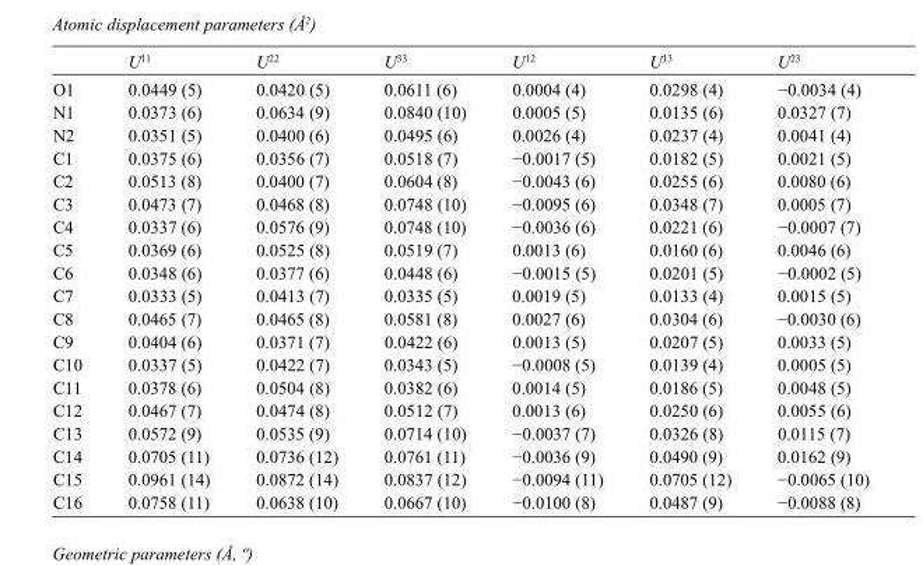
<table><thead><tr><td></td><td>U<sup>11</sup></td><td>U<sup>22</sup></td><td>U<sup>33</sup></td><td>U<sup>12</sup></td><td>U<sup>13</sup></td><td>U<sup>23</sup></td></tr></thead><tbody><tr><td>O1</td><td>0.0449 (5)</td><td>0.0420 (5)</td><td>0.0611 (6)</td><td>0.0004 (4)</td><td>0.0298 (4)</td><td>−0.0034 (4)</td></tr><tr><td>N1</td><td>0.0373 (6)</td><td>0.0634 (9)</td><td>0.0840 (10)</td><td>0.0005 (5)</td><td>0.0135 (6)</td><td>0.0327 (7)</td></tr><tr><td>N2</td><td>0.0351 (5)</td><td>0.0400 (6)</td><td>0.0495 (6)</td><td>0.0026 (4)</td><td>0.0237 (4)</td><td>0.0041 (4)</td></tr><tr><td>C1</td><td>0.0375 (6)</td><td>0.0356 (7)</td><td>0.0518 (7)</td><td>−0.0017 (5)</td><td>0.0182 (5)</td><td>0.0021 (5)</td></tr><tr><td>C2</td><td>0.0513 (8)</td><td>0.0400 (7)</td><td>0.0604 (8)</td><td>−0.0043 (6)</td><td>0.0255 (6)</td><td>0.0080 (6)</td></tr><tr><td>C3</td><td>0.0473 (7)</td><td>0.0468 (8)</td><td>0.0748 (10)</td><td>−0.0095 (6)</td><td>0.0348 (7)</td><td>0.0005 (7)</td></tr><tr><td>C4</td><td>0.0337 (6)</td><td>0.0576 (9)</td><td>0.0748 (10)</td><td>−0.0036 (6)</td><td>0.0221 (6)</td><td>−0.0007 (7)</td></tr><tr><td>C5</td><td>0.0369 (6)</td><td>0.0525 (8)</td><td>0.0519 (7)</td><td>0.0013 (6)</td><td>0.0160 (6)</td><td>0.0046 (6)</td></tr><tr><td>C6</td><td>0.0348 (6)</td><td>0.0377 (6)</td><td>0.0448 (6)</td><td>−0.0015 (5)</td><td>0.0201 (5)</td><td>−0.0002 (5)</td></tr><tr><td>C7</td><td>0.0333 (5)</td><td>0.0413 (7)</td><td>0.0335 (5)</td><td>0.0019 (5)</td><td>0.0133 (4)</td><td>0.0015 (5)</td></tr><tr><td>C8</td><td>0.0465 (7)</td><td>0.0465 (8)</td><td>0.0581 (8)</td><td>0.0027 (6)</td><td>0.0304 (6)</td><td>−0.0030 (6)</td></tr><tr><td>C9</td><td>0.0404 (6)</td><td>0.0371 (7)</td><td>0.0422 (6)</td><td>0.0013 (5)</td><td>0.0207 (5)</td><td>0.0033 (5)</td></tr><tr><td>C10</td><td>0.0337 (5)</td><td>0.0422 (7)</td><td>0.0343 (5)</td><td>−0.0008 (5)</td><td>0.0139 (4)</td><td>0.0005 (5)</td></tr><tr><td>C11</td><td>0.0378 (6)</td><td>0.0504 (8)</td><td>0.0382 (6)</td><td>0.0014 (5)</td><td>0.0186 (5)</td><td>0.0048 (5)</td></tr><tr><td>C12</td><td>0.0467 (7)</td><td>0.0474 (8)</td><td>0.0512 (7)</td><td>0.0013 (6)</td><td>0.0250 (6)</td><td>0.0055 (6)</td></tr><tr><td>C13</td><td>0.0572 (9)</td><td>0.0535 (9)</td><td>0.0714 (10)</td><td>−0.0037 (7)</td><td>0.0326 (8)</td><td>0.0115 (7)</td></tr><tr><td>C14</td><td>0.0705 (11)</td><td>0.0736 (12)</td><td>0.0761 (11)</td><td>−0.0036 (9)</td><td>0.0490 (9)</td><td>0.0162 (9)</td></tr><tr><td>C15</td><td>0.0961 (14)</td><td>0.0872 (14)</td><td>0.0837 (12)</td><td>−0.0094 (11)</td><td>0.0705 (12)</td><td>−0.0065 (10)</td></tr><tr><td>C16</td><td>0.0758 (11)</td><td>0.0638 (10)</td><td>0.0667 (10)</td><td>−0.0100 (8)</td><td>0.0487 (9)</td><td>−0.0088 (8)</td></tr></tbody></table>